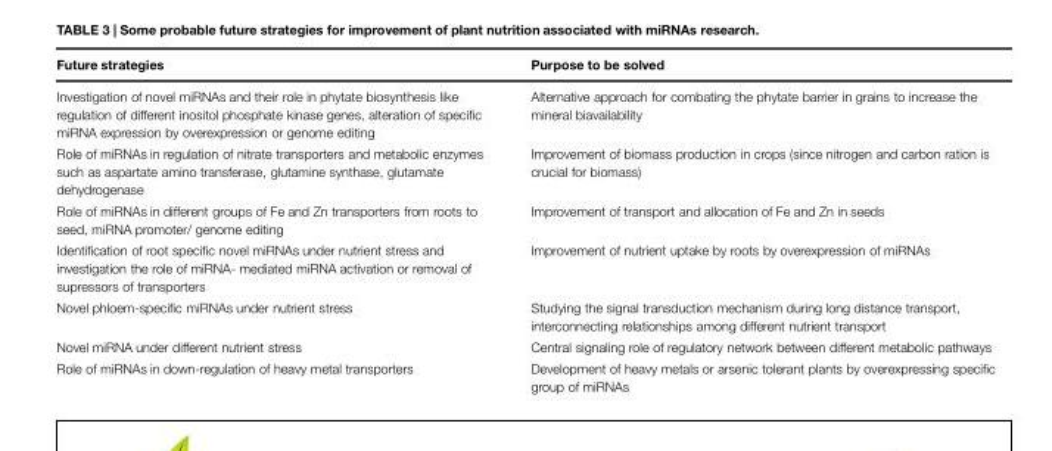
<table><thead><tr><td>Future strategies</td><td>Purpose to be solved</td></tr></thead><tbody><tr><td>Investigation of novel miRNAs and their role in phytate biosynthesis like regulation of different inositol phosphate kinase genes, alteration of specific miRNA expression by overexpression or genome editing</td><td>Alternative approach for combating the phytate barrier in grains to increase the mineral biavailability</td></tr><tr><td>Role of miRNAs in regulation of nitrate transporters and metabolic enzymes such as aspartate amino transferase, glutamine synthase, glutamate dehydrogenase</td><td>Improvement of biomass production in crops (since nitrogen and carbon ration is crucial for biomass)</td></tr><tr><td>Role of miRNAs in different groups of Fe and Zn transporters from roots to seed, miRNA promoter/ genome editing</td><td>Improvement of transport and allocation of Fe and Zn in seeds</td></tr><tr><td>Identification of root specific novel miRNAs under nutrient stress and investigation the role of miRNA- mediated miRNA activation or removal of supressors of transporters</td><td>Improvement of nutrient uptake by roots by overexpression of miRNAs</td></tr><tr><td>Novel phloem-specific miRNAs under nutrient stress</td><td>Studying the signal transduction mechanism during long distance transport, interconnecting relationships among different nutrient transport</td></tr><tr><td>Novel miRNA under different nutrient stress</td><td>Central signaling role of regulatory network between different metabolic pathways</td></tr><tr><td>Role of miRNAs in down-regulation of heavy metal transporters</td><td>Development of heavy metals or arsenic tolerant plants by overexpressing specific group of miRNAs</td></tr></tbody></table>